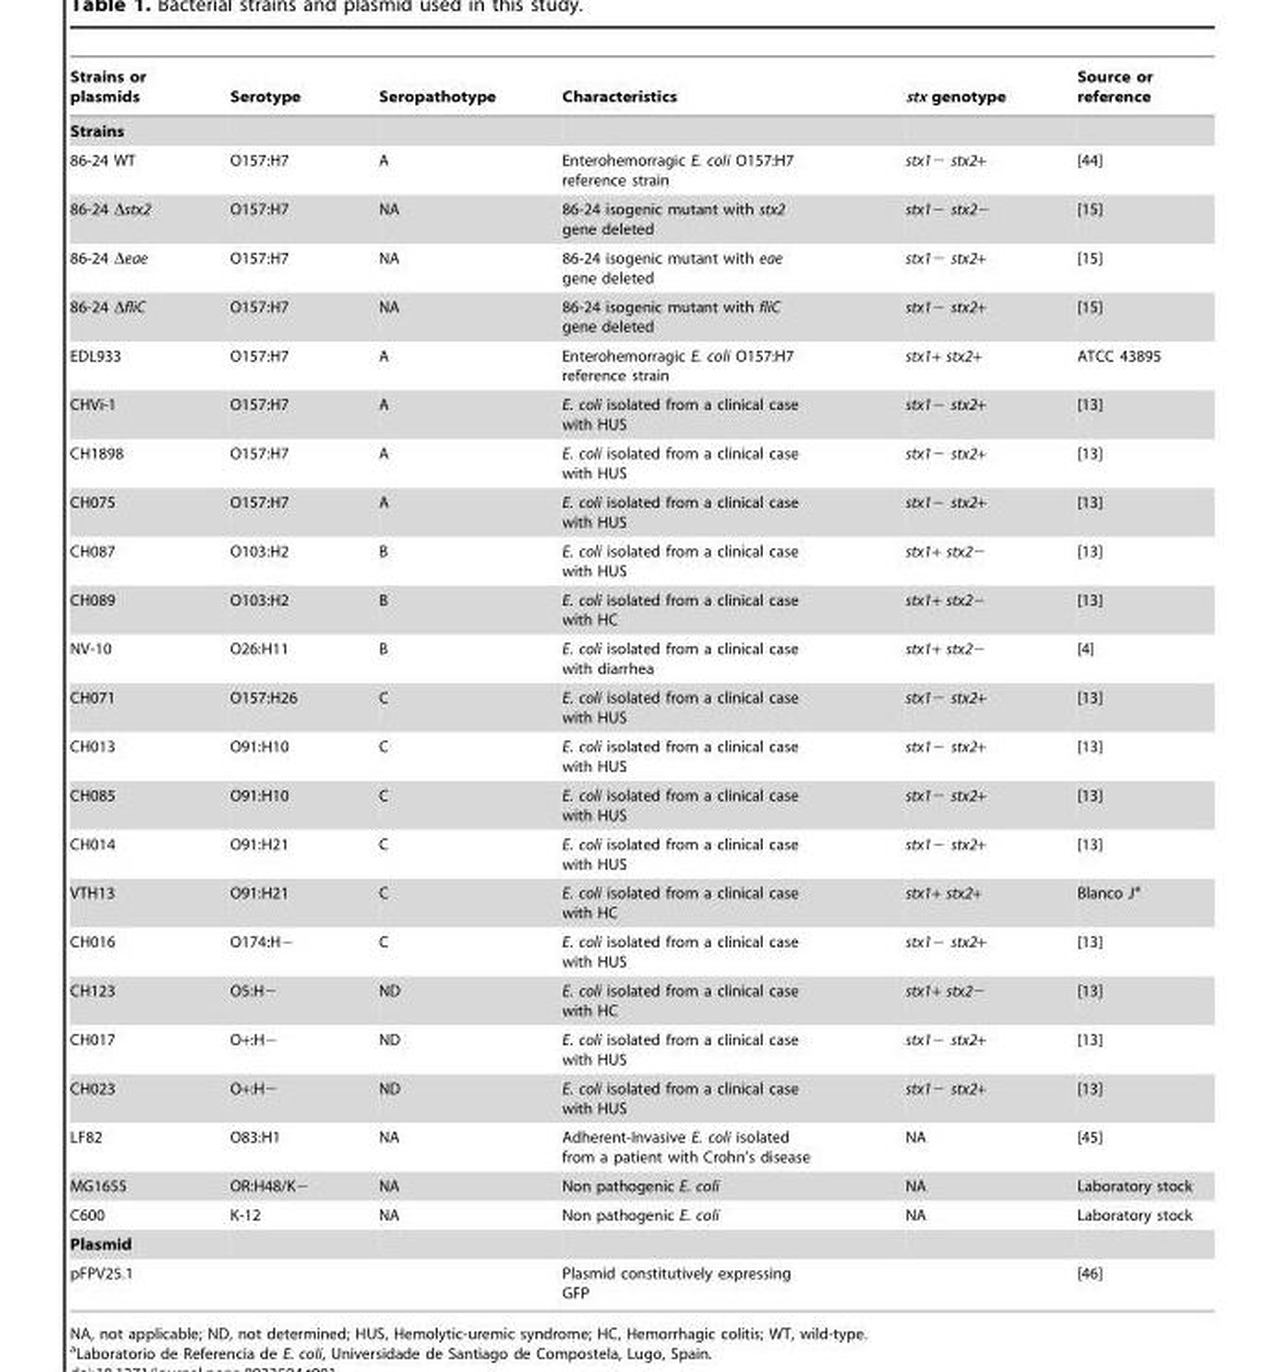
<table><thead><tr><td>Strains or plasmids</td><td>Serotype</td><td>Seropathotype</td><td>Characteristics</td><td>stx genotype</td><td>Source or reference</td></tr></thead><tbody><tr><td colspan="6">Strains</td></tr><tr><td>86-24 WT</td><td>O157:H7</td><td>A</td><td>Enterohemorragic E. coli O157:H7 reference strain</td><td>stx1− stx2+</td><td>[44]</td></tr><tr><td>86-24 Δstx2</td><td>O157:H7</td><td>NA</td><td>86-24 isogenic mutant with stx2 gene deleted</td><td>stx1− stx2−</td><td>[15]</td></tr><tr><td>86-24 Δeae</td><td>O157:H7</td><td>NA</td><td>86-24 isogenic mutant with eae gene deleted</td><td>stx1− stx2+</td><td>[15]</td></tr><tr><td>86-24 ΔfliC</td><td>O157:H7</td><td>NA</td><td>86-24 isogenic mutant with fliC gene deleted</td><td>stx1− stx2+</td><td>[15]</td></tr><tr><td>EDL933</td><td>O157:H7</td><td>A</td><td>Enterohemorragic E. coli O157:H7 reference strain</td><td>stx1+ stx2+</td><td>ATCC 43895</td></tr><tr><td>CHVi-1</td><td>O157:H7</td><td>A</td><td>E. coli isolated from a clinical case with HUS</td><td>stx1− stx2+</td><td>[13]</td></tr><tr><td>CH1898</td><td>O157:H7</td><td>A</td><td>E. coli isolated from a clinical case with HUS</td><td>stx1− stx2+</td><td>[13]</td></tr><tr><td>CH075</td><td>O157:H7</td><td>A</td><td>E. coli isolated from a clinical case with HUS</td><td>stx1− stx2+</td><td>[13]</td></tr><tr><td>CH087</td><td>O103:H2</td><td>B</td><td>E. coli isolated from a clinical case with HUS</td><td>stx1+ stx2−</td><td>[13]</td></tr><tr><td>CH089</td><td>O103:H2</td><td>B</td><td>E. coli isolated from a clinical case with HC</td><td>stx1+ stx2−</td><td>[13]</td></tr><tr><td>NV-10</td><td>O26:H11</td><td>B</td><td>E. coli isolated from a clinical case with diarrhea</td><td>stx1+ stx2−</td><td>[4]</td></tr><tr><td>CH071</td><td>O157:H26</td><td>C</td><td>E. coli isolated from a clinical case with HUS</td><td>stx1− stx2+</td><td>[13]</td></tr><tr><td>CH013</td><td>O91:H10</td><td>C</td><td>E. coli isolated from a clinical case with HUS</td><td>stx1− stx2+</td><td>[13]</td></tr><tr><td>CH085</td><td>O91:H10</td><td>C</td><td>E. coli isolated from a clinical case with HUS</td><td>stx1− stx2+</td><td>[13]</td></tr><tr><td>CH014</td><td>O91:H21</td><td>C</td><td>E. coli isolated from a clinical case with HUS</td><td>stx1− stx2+</td><td>[13]</td></tr><tr><td>VTH13</td><td>O91:H21</td><td>C</td><td>E. coli isolated from a clinical case with HC</td><td>stx1+ stx2+</td><td>Blanco J<sup>a</sup></td></tr><tr><td>CH016</td><td>O174:H−</td><td>C</td><td>E. coli isolated from a clinical case with HUS</td><td>stx1− stx2+</td><td>[13]</td></tr><tr><td>CH123</td><td>O5:H−</td><td>ND</td><td>E. coli isolated from a clinical case with HC</td><td>stx1+ stx2−</td><td>[13]</td></tr><tr><td>CH017</td><td>O+:H−</td><td>ND</td><td>E. coli isolated from a clinical case with HUS</td><td>stx1− stx2+</td><td>[13]</td></tr><tr><td>CH023</td><td>O+:H−</td><td>ND</td><td>E. coli isolated from a clinical case with HUS</td><td>stx1− stx2+</td><td>[13]</td></tr><tr><td>LF82</td><td>O83:H1</td><td>NA</td><td>Adherent-Invasive E. coli isolated from a patient with Crohn’s disease</td><td>NA</td><td>[45]</td></tr><tr><td>MG1655</td><td>OR:H48/K−</td><td>NA</td><td>Non pathogenic E. coli</td><td>NA</td><td>Laboratory stock</td></tr><tr><td>C600</td><td>K-12</td><td>NA</td><td>Non pathogenic E. coli</td><td>NA</td><td>Laboratory stock</td></tr><tr><td colspan="6">Plasmid</td></tr><tr><td>pFPV25.1</td><td></td><td></td><td>Plasmid constitutively expressing GFP</td><td></td><td>[46]</td></tr></tbody></table>